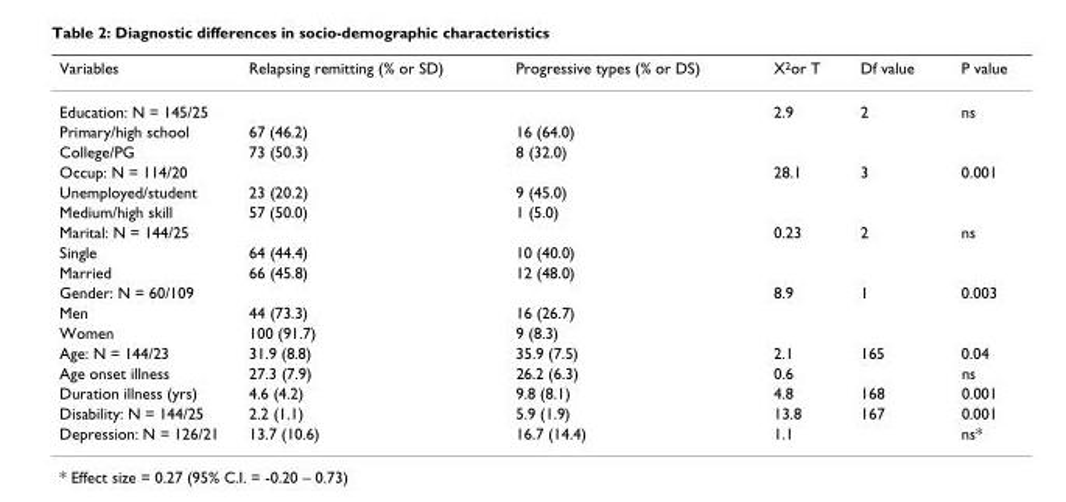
<table><thead><tr><td>Variables</td><td>Relapsing remitting (% or SD)</td><td>Progressive types (% or DS)</td><td>X<sup>2</sup>or T</td><td>Df value</td><td>P value</td></tr></thead><tbody><tr><td>Education: N = 145/25</td><td></td><td></td><td>2.9</td><td>2</td><td>ns</td></tr><tr><td>Primary/high school</td><td>67 (46.2)</td><td>16 (64.0)</td><td></td><td></td><td></td></tr><tr><td>College/PG</td><td>73 (50.3)</td><td>8 (32.0)</td><td></td><td></td><td></td></tr><tr><td>Occup: N = 114/20</td><td></td><td></td><td>28.1</td><td>3</td><td>0.001</td></tr><tr><td>Unemployed/student</td><td>23 (20.2)</td><td>9 (45.0)</td><td></td><td></td><td></td></tr><tr><td>Medium/high skill</td><td>57 (50.0)</td><td>1 (5.0)</td><td></td><td></td><td></td></tr><tr><td>Marital: N = 144/25</td><td></td><td></td><td>0.23</td><td>2</td><td>ns</td></tr><tr><td>Single</td><td>64 (44.4)</td><td>10 (40.0)</td><td></td><td></td><td></td></tr><tr><td>Married</td><td>66 (45.8)</td><td>12 (48.0)</td><td></td><td></td><td></td></tr><tr><td>Gender: N = 60/109</td><td></td><td></td><td>8.9</td><td>1</td><td>0.003</td></tr><tr><td>Men</td><td>44 (73.3)</td><td>16 (26.7)</td><td></td><td></td><td></td></tr><tr><td>Women</td><td>100 (91.7)</td><td>9 (8.3)</td><td></td><td></td><td></td></tr><tr><td>Age: N = 144/23</td><td>31.9 (8.8)</td><td>35.9 (7.5)</td><td>2.1</td><td>165</td><td>0.04</td></tr><tr><td>Age onset illness</td><td>27.3 (7.9)</td><td>26.2 (6.3)</td><td>0.6</td><td></td><td>ns</td></tr><tr><td>Duration illness (yrs)</td><td>4.6 (4.2)</td><td>9.8 (8.1)</td><td>4.8</td><td>168</td><td>0.001</td></tr><tr><td>Disability: N = 144/25</td><td>2.2 (1.1)</td><td>5.9 (1.9)</td><td>13.8</td><td>167</td><td>0.001</td></tr><tr><td>Depression: N = 126/21</td><td>13.7 (10.6)</td><td>16.7 (14.4)</td><td>1.1</td><td></td><td>ns*</td></tr></tbody></table>